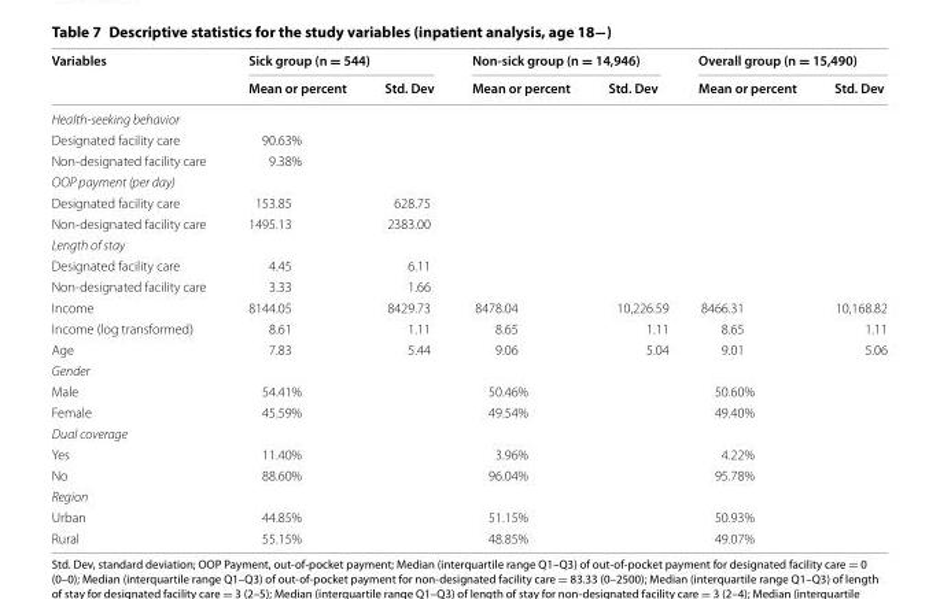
<table><thead><tr><td rowspan="2">Variables</td><td colspan="2">Sick group (n = 544)</td><td colspan="2">Non-sick group (n = 14,946)</td><td colspan="2">Overall group (n = 15,490)</td></tr><tr><td>Mean or percent</td><td>Std. Dev</td><td>Mean or percent</td><td>Std. Dev</td><td>Mean or percent</td><td>Std. Dev</td></tr></thead><tbody><tr><td colspan="7">Health-seeking behavior</td></tr><tr><td>Designated facility care</td><td>90.63%</td><td></td><td></td><td></td><td></td><td></td></tr><tr><td>Non-designated facility care</td><td>9.38%</td><td></td><td></td><td></td><td></td><td></td></tr><tr><td colspan="7">OOP payment (per day)</td></tr><tr><td>Designated facility care</td><td>153.85</td><td>628.75</td><td></td><td></td><td></td><td></td></tr><tr><td>Non-designated facility care</td><td>1495.13</td><td>2383.00</td><td></td><td></td><td></td><td></td></tr><tr><td colspan="7">Length of stay</td></tr><tr><td>Designated facility care</td><td>4.45</td><td>6.11</td><td></td><td></td><td></td><td></td></tr><tr><td>Non-designated facility care</td><td>3.33</td><td>1.66</td><td></td><td></td><td></td><td></td></tr><tr><td>Income</td><td>8144.05</td><td>8429.73</td><td>8478.04</td><td>10,226.59</td><td>8466.31</td><td>10,168.82</td></tr><tr><td>Income (log transformed)</td><td>8.61</td><td>1.11</td><td>8.65</td><td>1.11</td><td>8.65</td><td>1.11</td></tr><tr><td>Age</td><td>7.83</td><td>5.44</td><td>9.06</td><td>5.04</td><td>9.01</td><td>5.06</td></tr><tr><td colspan="7">Gender</td></tr><tr><td>Male</td><td>54.41%</td><td></td><td>50.46%</td><td></td><td>50.60%</td><td></td></tr><tr><td>Female</td><td>45.59%</td><td></td><td>49.54%</td><td></td><td>49.40%</td><td></td></tr><tr><td colspan="7">Dual coverage</td></tr><tr><td>Yes</td><td>11.40%</td><td></td><td>3.96%</td><td></td><td>4.22%</td><td></td></tr><tr><td>No</td><td>88.60%</td><td></td><td>96.04%</td><td></td><td>95.78%</td><td></td></tr><tr><td colspan="7">Region</td></tr><tr><td>Urban</td><td>44.85%</td><td></td><td>51.15%</td><td></td><td>50.93%</td><td></td></tr><tr><td>Rural</td><td>55.15%</td><td></td><td>48.85%</td><td></td><td>49.07%</td><td></td></tr></tbody></table>